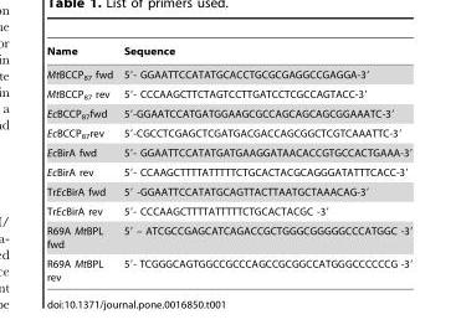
<table><thead><tr><td>Name</td><td>Sequence</td></tr></thead><tbody><tr><td>MtBCCP<sub>87</sub> fwd</td><td>5′- GGAATTCCATATGCACCTGCGCGAGGCCGAGGA-3′</td></tr><tr><td>MtBCCP<sub>87</sub> rev</td><td>5′- CCCAAGCTTCTAGTCCTTGATCCTCGCCAGTACC-3′</td></tr><tr><td>EcBCCP<sub>87</sub>fwd</td><td>5′-GGAATCCATGATGGAAGCGCCAGCAGCAGCGGAAATC-3′</td></tr><tr><td>EcBCCP<sub>87</sub>rev</td><td>5′-CGCCTCGAGCTCGATGACGACCAGCGGCTCGTCAAATTC-3′</td></tr><tr><td>EcBirA fwd</td><td>5′- GGAATTCCATATGATGAAGGATAACACCGTGCCACTGAAA-3′</td></tr><tr><td>EcBirA rev</td><td>5′- CCAAGCTTTTATTTTTCTGCACTACGCAGGGATATTTCACC-3′</td></tr><tr><td>TrEcBirA fwd</td><td>5′ -GGAATTCCATATGCAGTTACTTAATGCTAAACAG-3′</td></tr><tr><td>TrEcBirA rev</td><td>5′- CCCAAGCTTTTATTTTTCTGCACTACGC -3′</td></tr><tr><td>R69A MtBPL fwd</td><td>5′ – ATCGCCGAGCATCAGACCGCTGGGCGGGGGCCCATGGC -3′</td></tr><tr><td>R69A MtBPL rev</td><td>5′- TCGGGCAGTGGCCGCCCAGCCGCGGCCATGGGCCCCCCG -3′</td></tr></tbody></table>